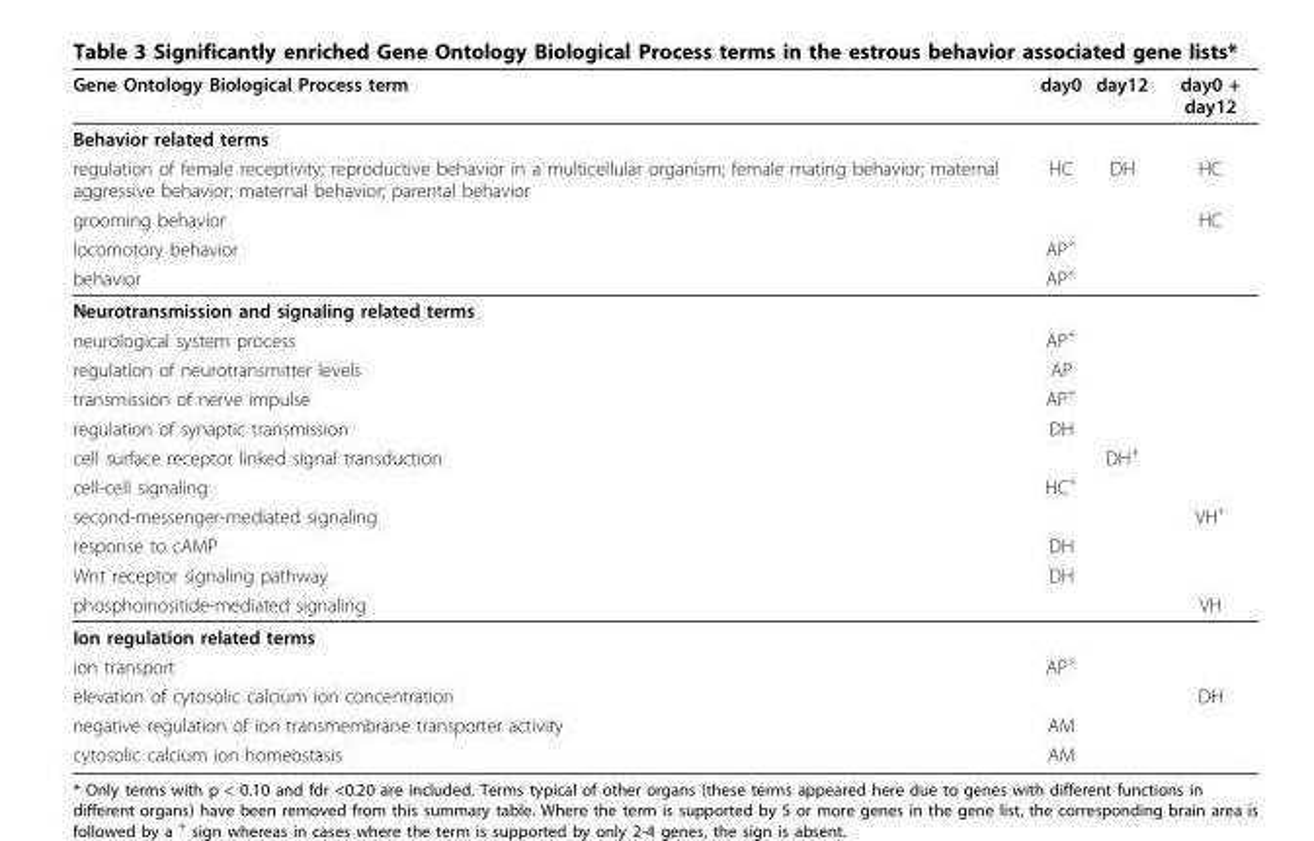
<table><thead><tr><td>Gene Ontology Biological Process term</td><td>day0</td><td>day12</td><td>day0 + day12</td></tr></thead><tbody><tr><td colspan="4">Behavior related terms</td></tr><tr><td>regulation of female receptivity; reproductive behavior in a multicellular organism; female mating behavior; maternal aggressive behavior; maternal behavior; parental behavior</td><td>HC</td><td>DH</td><td>HC</td></tr><tr><td>grooming behavior</td><td></td><td></td><td>HC</td></tr><tr><td>locomotory behavior</td><td>AP<sup>+</sup></td><td></td><td></td></tr><tr><td>behavior</td><td>AP<sup>+</sup></td><td></td><td></td></tr><tr><td colspan="4">Neurotransmission and signaling related terms</td></tr><tr><td>neurological system process</td><td>AP<sup>+</sup></td><td></td><td></td></tr><tr><td>regulation of neurotransmitter levels</td><td>AP</td><td></td><td></td></tr><tr><td>transmission of nerve impulse</td><td>AP<sup>+</sup></td><td></td><td></td></tr><tr><td>regulation of synaptic transmission</td><td>DH</td><td></td><td></td></tr><tr><td>cell surface receptor linked signal transduction</td><td></td><td>DH<sup>+</sup></td><td></td></tr><tr><td>cell-cell signaling</td><td>HC<sup>+</sup></td><td></td><td></td></tr><tr><td>second-messenger-mediated signaling</td><td></td><td></td><td>VH<sup>+</sup></td></tr><tr><td>response to cAMP</td><td>DH</td><td></td><td></td></tr><tr><td>Wnt receptor signaling pathway</td><td>DH</td><td></td><td></td></tr><tr><td>phosphoinositide-mediated signaling</td><td></td><td></td><td>VH</td></tr><tr><td colspan="4">Ion regulation related terms</td></tr><tr><td>ion transport</td><td>AP<sup>+</sup></td><td></td><td></td></tr><tr><td>elevation of cytosolic calcium ion concentration</td><td></td><td></td><td>DH</td></tr><tr><td>negative regulation of ion transmembrane transporter activity</td><td>AM</td><td></td><td></td></tr><tr><td>cytosolic calcium ion homeostasis</td><td>AM</td><td></td><td></td></tr></tbody></table>